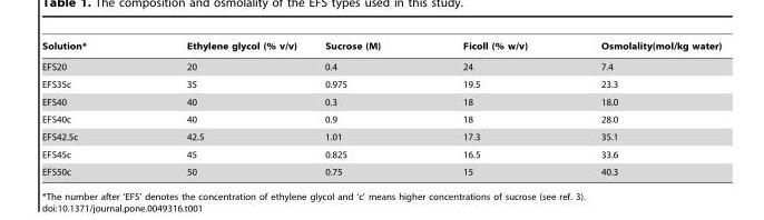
<table><thead><tr><td>Solution*</td><td>Ethylene glycol (% v/v)</td><td>Sucrose (M)</td><td>Ficoll (% w/v)</td><td>Osmolality(mol/kg water)</td></tr></thead><tbody><tr><td>EFS20</td><td>20</td><td>0.4</td><td>24</td><td>7.4</td></tr><tr><td>EFS35c</td><td>35</td><td>0.975</td><td>19.5</td><td>23.3</td></tr><tr><td>EFS40</td><td>40</td><td>0.3</td><td>18</td><td>18.0</td></tr><tr><td>EFS40c</td><td>40</td><td>0.9</td><td>18</td><td>28.0</td></tr><tr><td>EFS42.5c</td><td>42.5</td><td>1.01</td><td>17.3</td><td>35.1</td></tr><tr><td>EFS45c</td><td>45</td><td>0.825</td><td>16.5</td><td>33.6</td></tr><tr><td>EFS50c</td><td>50</td><td>0.75</td><td>15</td><td>40.3</td></tr></tbody></table>